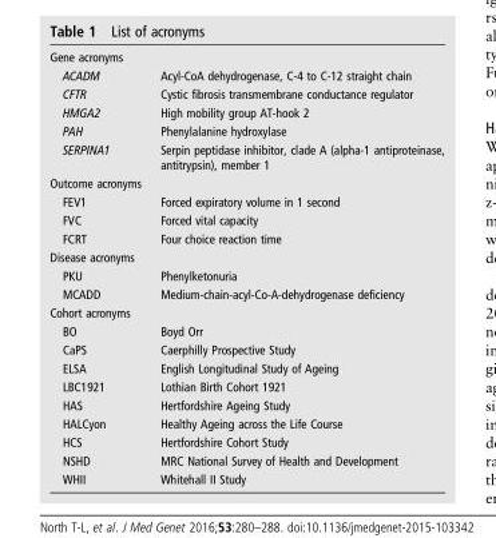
<table><tbody><tr><td colspan="2">Gene acronyms</td></tr><tr><td>ACADM</td><td>Acyl-CoA dehydrogenase, C-4 to C-12 straight chain</td></tr><tr><td>CFTR</td><td>Cystic fibrosis transmembrane conductance regulator</td></tr><tr><td>HMGA2</td><td>High mobility group AT-hook 2</td></tr><tr><td>PAH</td><td>Phenylalanine hydroxylase</td></tr><tr><td>SERPINA1</td><td>Serpin peptidase inhibitor, clade A (alpha-1 antiproteinase, antitrypsin), member 1</td></tr><tr><td colspan="2">Outcome acronyms</td></tr><tr><td>FEV1</td><td>Forced expiratory volume in 1 second</td></tr><tr><td>FVC</td><td>Forced vital capacity</td></tr><tr><td>FCRT</td><td>Four choice reaction time</td></tr><tr><td colspan="2">Disease acronyms</td></tr><tr><td>PKU</td><td>Phenylketonuria</td></tr><tr><td>MCADD</td><td>Medium-chain-acyl-Co-A-dehydrogenase deficiency</td></tr><tr><td colspan="2">Cohort acronyms</td></tr><tr><td>BO</td><td>Boyd Orr</td></tr><tr><td>CaPS</td><td>Caerphilly Prospective Study</td></tr><tr><td>ELSA</td><td>English Longitudinal Study of Ageing</td></tr><tr><td>LBC1921</td><td>Lothian Birth Cohort 1921</td></tr><tr><td>HAS</td><td>Hertfordshire Ageing Study</td></tr><tr><td>HALCyon</td><td>Healthy Ageing across the Life Course</td></tr><tr><td>HCS</td><td>Hertfordshire Cohort Study</td></tr><tr><td>NSHD</td><td>MRC National Survey of Health and Development</td></tr><tr><td>WHII</td><td>Whitehall II Study</td></tr></tbody></table>